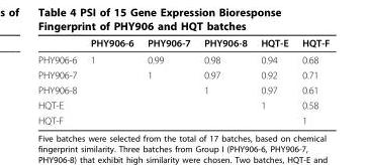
<table><thead><tr><td></td><td>PHY906-6</td><td>PHY906-7</td><td>PHY906-8</td><td>HQT-E</td><td>HQT-F</td></tr></thead><tbody><tr><td>PHY906-6</td><td>1</td><td>0.99</td><td>0.98</td><td>0.94</td><td>0.68</td></tr><tr><td>PHY906-7</td><td></td><td>1</td><td>0.97</td><td>0.92</td><td>0.71</td></tr><tr><td>PHY906-8</td><td></td><td></td><td>1</td><td>0.97</td><td>0.61</td></tr><tr><td>HQT-E</td><td></td><td></td><td></td><td>1</td><td>0.58</td></tr><tr><td>HQT-F</td><td></td><td></td><td></td><td></td><td>1</td></tr></tbody></table>